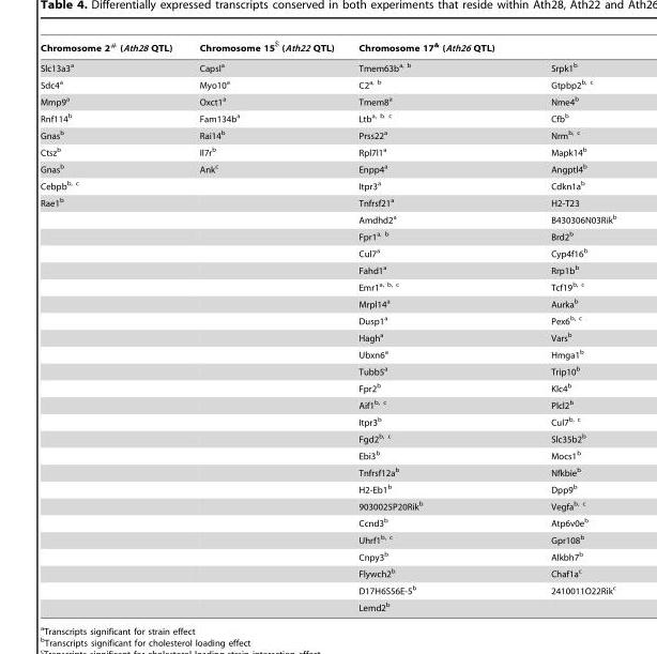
<table><thead><tr><td>Chromosome 2# (Ath28 QTL)</td><td>Chromosome 15$ (Ath22 QTL)</td><td>Chromosome 17&amp; (Ath26 QTL)</td><td></td></tr></thead><tbody><tr><td>Slc13a3<sup>a</sup></td><td>Capsl<sup>a</sup></td><td>Tmem63ba, b</td><td>Srpk1<sup>b</sup></td></tr><tr><td>Sdc4<sup>a</sup></td><td>Myo10<sup>a</sup></td><td>C2a, b</td><td>Gtpbp2b, c</td></tr><tr><td>Mmp9<sup>a</sup></td><td>Oxct1<sup>a</sup></td><td>Tmem8<sup>a</sup></td><td>Nme4<sup>b</sup></td></tr><tr><td>Rnf114<sup>b</sup></td><td>Fam134b<sup>a</sup></td><td>Ltba, b. c</td><td>Cfb<sup>b</sup></td></tr><tr><td>Gnas<sup>b</sup></td><td>Rai14<sup>b</sup></td><td>Prss22<sup>a</sup></td><td>Nrmb, c</td></tr><tr><td>Ctsz<sup>b</sup></td><td>Il7r<sup>b</sup></td><td>Rpl7l1<sup>a</sup></td><td>Mapk14<sup>b</sup></td></tr><tr><td>Gnas<sup>b</sup></td><td>Ank<sup>c</sup></td><td>Enpp4<sup>a</sup></td><td>Angptl4<sup>b</sup></td></tr><tr><td>Cebpbb, c</td><td></td><td>Itpr3<sup>a</sup></td><td>Cdkn1a<sup>b</sup></td></tr><tr><td rowspan="25">Rae1<sup>b</sup></td><td></td><td>Tnfrsf21<sup>a</sup></td><td>H2-T23</td></tr><tr><td></td><td>Amdhd2<sup>a</sup></td><td>B430306N03Rik<sup>b</sup></td></tr><tr><td></td><td>Fpr1a, b</td><td>Brd2<sup>b</sup></td></tr><tr><td></td><td>Cul7<sup>a</sup></td><td>Cyp4f16<sup>b</sup></td></tr><tr><td></td><td>Fahd1<sup>a</sup></td><td>Rrp1b<sup>b</sup></td></tr><tr><td></td><td>Emr1a, b, c</td><td>Tcf19b, c</td></tr><tr><td></td><td>Mrpl14<sup>a</sup></td><td>Aurka<sup>b</sup></td></tr><tr><td></td><td>Dusp1<sup>a</sup></td><td>Pex6b, c</td></tr><tr><td></td><td>Hagh<sup>a</sup></td><td>Vars<sup>b</sup></td></tr><tr><td></td><td>Ubxn6<sup>a</sup></td><td>Hmga1<sup>b</sup></td></tr><tr><td></td><td>Tubb5<sup>a</sup></td><td>Trip10<sup>b</sup></td></tr><tr><td></td><td>Fpr2<sup>b</sup></td><td>Klc4<sup>b</sup></td></tr><tr><td></td><td>Aif1b, c</td><td>Plcl2<sup>b</sup></td></tr><tr><td></td><td>Itpr3<sup>b</sup></td><td>Cul7b, c</td></tr><tr><td></td><td>Fgd2b, c</td><td>Slc35b2<sup>b</sup></td></tr><tr><td></td><td>Ebi3<sup>b</sup></td><td>Mocs1<sup>b</sup></td></tr><tr><td></td><td>Tnfrsf12a<sup>b</sup></td><td>Nfkbie<sup>b</sup></td></tr><tr><td></td><td>H2-Eb1<sup>b</sup></td><td>Dpp9<sup>b</sup></td></tr><tr><td></td><td>9030025P20Rik<sup>b</sup></td><td>Vegfab, c</td></tr><tr><td></td><td>Ccnd3<sup>b</sup></td><td>Atp6v0e<sup>b</sup></td></tr><tr><td></td><td>Uhrf1b, c</td><td>Gpr108<sup>b</sup></td></tr><tr><td></td><td>Cnpy3<sup>b</sup></td><td>Alkbh7<sup>b</sup></td></tr><tr><td></td><td>Flywch2<sup>b</sup></td><td>Chaf1a<sup>c</sup></td></tr><tr><td></td><td>D17H6S56E-5<sup>b</sup></td><td>2410011O22Rik<sup>c</sup></td></tr><tr><td></td><td>Lemd2<sup>b</sup></td><td></td></tr></tbody></table>